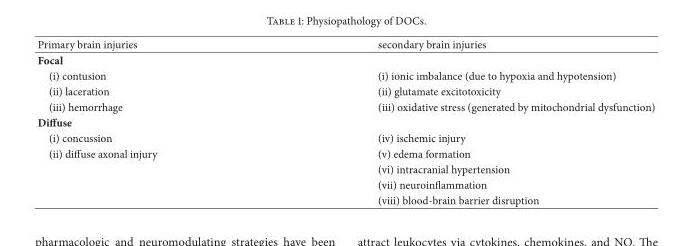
<table><thead><tr><td>Primary brain injuries</td><td>secondary brain injuries</td></tr></thead><tbody><tr><td colspan="2">Focal</td></tr><tr><td>(i) contusion</td><td>(i) ionic imbalance (due to hypoxia and hypotension)</td></tr><tr><td>(ii) laceration</td><td>(ii) glutamate excitotoxicity</td></tr><tr><td>(iii) hemorrhage</td><td>(iii) oxidative stress (generated by mitochondrial dysfunction)</td></tr><tr><td colspan="2">Diffuse</td></tr><tr><td>(i) concussion</td><td>(iv) ischemic injury</td></tr><tr><td rowspan="4">(ii) diffuse axonal injury</td><td>(v) edema formation</td></tr><tr><td>(vi) intracranial hypertension</td></tr><tr><td>(vii) neuroinflammation</td></tr><tr><td>(viii) blood-brain barrier disruption</td></tr></tbody></table>